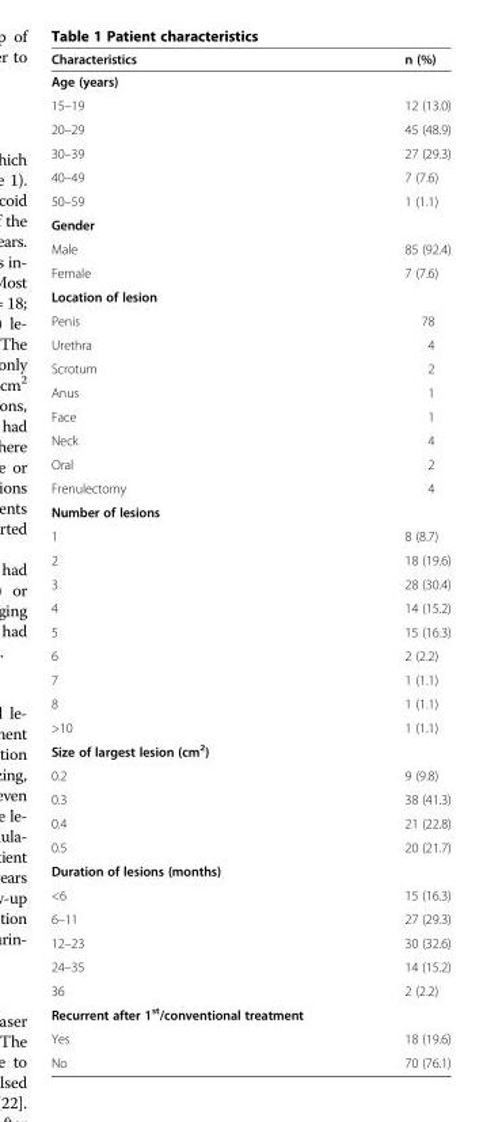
<table><thead><tr><td>Characteristics</td><td>n (%)</td></tr></thead><tbody><tr><td colspan="2">Age (years)</td></tr><tr><td>15–19</td><td>12 (13.0)</td></tr><tr><td>20–29</td><td>45 (48.9)</td></tr><tr><td>30–39</td><td>27 (29.3)</td></tr><tr><td>40–49</td><td>7 (7.6)</td></tr><tr><td>50–59</td><td>1 (1.1)</td></tr><tr><td colspan="2">Gender</td></tr><tr><td>Male</td><td>85 (92.4)</td></tr><tr><td>Female</td><td>7 (7.6)</td></tr><tr><td colspan="2">Location of lesion</td></tr><tr><td>Penis</td><td>78</td></tr><tr><td>Urethra</td><td>4</td></tr><tr><td>Scrotum</td><td>2</td></tr><tr><td>Anus</td><td>1</td></tr><tr><td>Face</td><td>1</td></tr><tr><td>Neck</td><td>4</td></tr><tr><td>Oral</td><td>2</td></tr><tr><td>Frenulectomy</td><td>4</td></tr><tr><td colspan="2">Number of lesions</td></tr><tr><td>1</td><td>8 (8.7)</td></tr><tr><td>2</td><td>18 (19.6)</td></tr><tr><td>3</td><td>28 (30.4)</td></tr><tr><td>4</td><td>14 (15.2)</td></tr><tr><td>5</td><td>15 (16.3)</td></tr><tr><td>6</td><td>2 (2.2)</td></tr><tr><td>7</td><td>1 (1.1)</td></tr><tr><td>8</td><td>1 (1.1)</td></tr><tr><td>&gt;10</td><td>1 (1.1)</td></tr><tr><td colspan="2">Size of largest lesion (cm<sup>2</sup>)</td></tr><tr><td>0.2</td><td>9 (9.8)</td></tr><tr><td>0.3</td><td>38 (41.3)</td></tr><tr><td>0.4</td><td>21 (22.8)</td></tr><tr><td>0.5</td><td>20 (21.7)</td></tr><tr><td colspan="2">Duration of lesions (months)</td></tr><tr><td>&lt;6</td><td>15 (16.3)</td></tr><tr><td>6–11</td><td>27 (29.3)</td></tr><tr><td>12–23</td><td>30 (32.6)</td></tr><tr><td>24–35</td><td>14 (15.2)</td></tr><tr><td>36</td><td>2 (2.2)</td></tr><tr><td colspan="2">Recurrent after 1<sup>st</sup>/conventional treatment</td></tr><tr><td>Yes</td><td>18 (19.6)</td></tr><tr><td>No</td><td>70 (76.1)</td></tr></tbody></table>